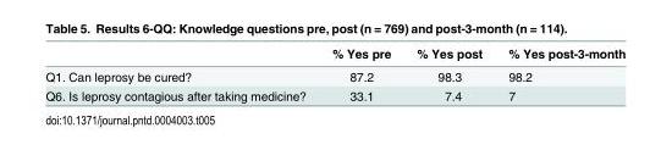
<table><thead><tr><td></td><td>% Yes pre</td><td>% Yes post</td><td>% Yes post-3-month</td></tr></thead><tbody><tr><td>Q1. Can leprosy be cured?</td><td>87.2</td><td>98.3</td><td>98.2</td></tr><tr><td>Q6. Is leprosy contagious after taking medicine?</td><td>33.1</td><td>7.4</td><td>7</td></tr></tbody></table>